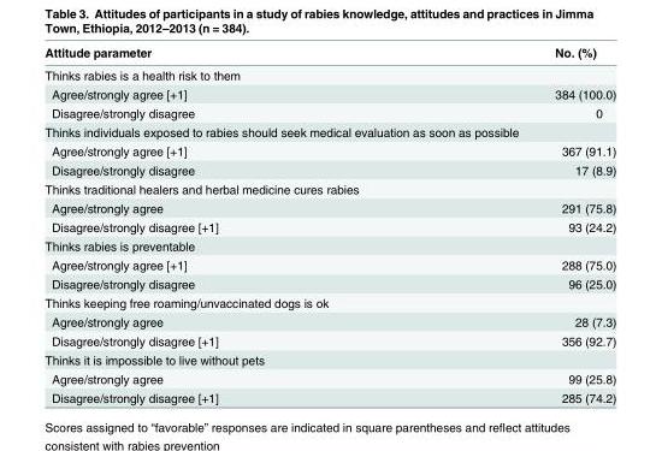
<table><thead><tr><td>Attitude parameter</td><td>No. (%)</td></tr></thead><tbody><tr><td colspan="2">Thinks rabies is a health risk to them</td></tr><tr><td>Agree/strongly agree [+1]</td><td>384 (100.0)</td></tr><tr><td>Disagree/strongly disagree</td><td>0</td></tr><tr><td colspan="2">Thinks individuals exposed to rabies should seek medical evaluation as soon as possible</td></tr><tr><td>Agree/strongly agree [+1]</td><td>367 (91.1)</td></tr><tr><td>Disagree/strongly disagree</td><td>17 (8.9)</td></tr><tr><td colspan="2">Thinks traditional healers and herbal medicine cures rabies</td></tr><tr><td>Agree/strongly agree</td><td>291 (75.8)</td></tr><tr><td>Disagree/strongly disagree [+1]</td><td>93 (24.2)</td></tr><tr><td colspan="2">Thinks rabies is preventable</td></tr><tr><td>Agree/strongly agree [+1]</td><td>288 (75.0)</td></tr><tr><td>Disagree/strongly disagree</td><td>96 (25.0)</td></tr><tr><td colspan="2">Thinks keeping free roaming/unvaccinated dogs is ok</td></tr><tr><td>Agree/strongly agree</td><td>28 (7.3)</td></tr><tr><td>Disagree/strongly disagree [+1]</td><td>356 (92.7)</td></tr><tr><td colspan="2">Thinks it is impossible to live without pets</td></tr><tr><td>Agree/strongly agree</td><td>99 (25.8)</td></tr><tr><td>Disagree/strongly disagree [+1]</td><td>285 (74.2)</td></tr></tbody></table>